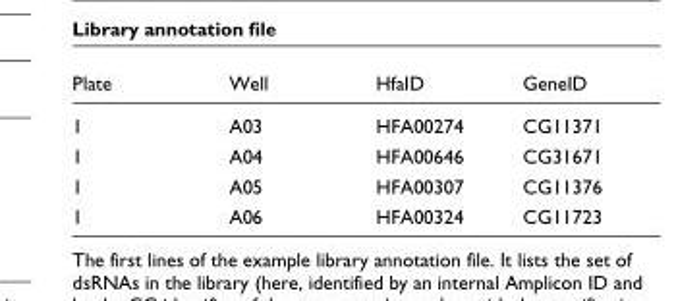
<table><thead><tr><td>Plate</td><td>Well</td><td>HfaID</td><td>GeneID</td></tr></thead><tbody><tr><td>1</td><td>A03</td><td>HFA00274</td><td>CG11371</td></tr><tr><td>1</td><td>A04</td><td>HFA00646</td><td>CG31671</td></tr><tr><td>1</td><td>A05</td><td>HFA00307</td><td>CG11376</td></tr><tr><td>1</td><td>A06</td><td>HFA00324</td><td>CG11723</td></tr></tbody></table>